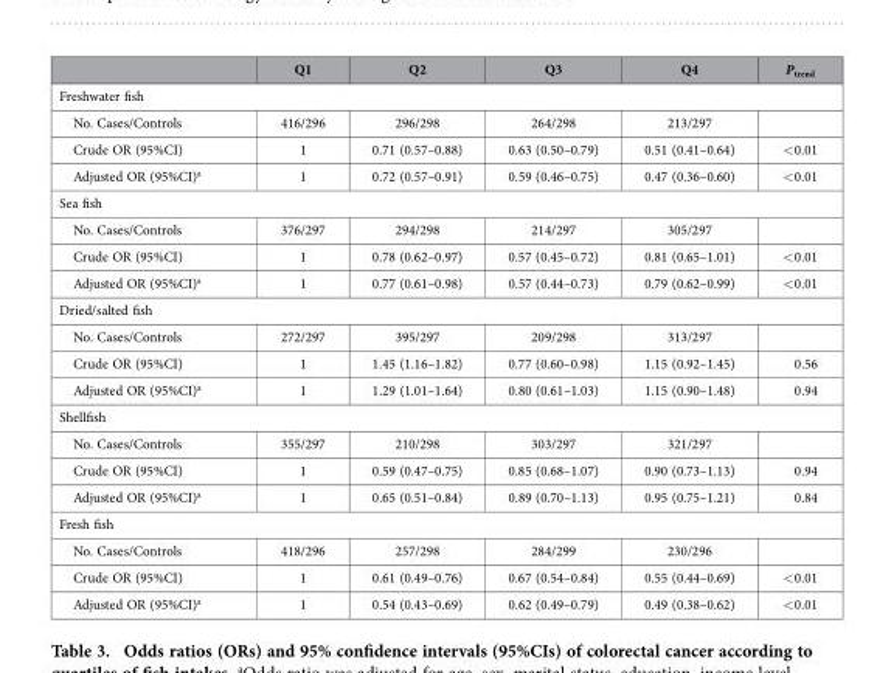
<table><thead><tr><td></td><td>Q1</td><td>Q2</td><td>Q3</td><td>Q4</td><td>P<sub>trend</sub></td></tr></thead><tbody><tr><td colspan="6">Freshwater fish</td></tr><tr><td>No. Cases/Controls</td><td>416/296</td><td>296/298</td><td>264/298</td><td>213/297</td><td></td></tr><tr><td>Crude OR (95%CI)</td><td>1</td><td>0.71 (0.57–0.88)</td><td>0.63 (0.50–0.79)</td><td>0.51 (0.41–0.64)</td><td>&lt; 0.01</td></tr><tr><td>Adjusted OR (95%CI)<sup>a</sup></td><td>1</td><td>0.72 (0.57–0.91)</td><td>0.59 (0.46–0.75)</td><td>0.47 (0.36–0.60)</td><td>&lt; 0.01</td></tr><tr><td colspan="6">Sea fish</td></tr><tr><td>No. Cases/Controls</td><td>376/297</td><td>294/298</td><td>214/297</td><td>305/297</td><td></td></tr><tr><td>Crude OR (95%CI)</td><td>1</td><td>0.78 (0.62–0.97)</td><td>0.57 (0.45–0.72)</td><td>0.81 (0.65–1.01)</td><td>&lt; 0.01</td></tr><tr><td>Adjusted OR (95%CI)<sup>a</sup></td><td>1</td><td>0.77 (0.61–0.98)</td><td>0.57 (0.44–0.73)</td><td>0.79 (0.62–0.99)</td><td>&lt; 0.01</td></tr><tr><td colspan="6">Dried/salted fish</td></tr><tr><td>No. Cases/Controls</td><td>272/297</td><td>395/297</td><td>209/298</td><td>313/297</td><td></td></tr><tr><td>Crude OR (95%CI)</td><td>1</td><td>1.45 (1.16–1.82)</td><td>0.77 (0.60–0.98)</td><td>1.15 (0.92–1.45)</td><td>0.56</td></tr><tr><td>Adjusted OR (95%CI)<sup>a</sup></td><td>1</td><td>1.29 (1.01–1.64)</td><td>0.80 (0.61–1.03)</td><td>1.15 (0.90–1.48)</td><td>0.94</td></tr><tr><td colspan="6">Shellfish</td></tr><tr><td>No. Cases/Controls</td><td>355/297</td><td>210/298</td><td>303/297</td><td>321/297</td><td></td></tr><tr><td>Crude OR (95%CI)</td><td>1</td><td>0.59 (0.47–0.75)</td><td>0.85 (0.68–1.07)</td><td>0.90 (0.73–1.13)</td><td>0.94</td></tr><tr><td>Adjusted OR (95%CI)<sup>a</sup></td><td>1</td><td>0.65 (0.51–0.84)</td><td>0.89 (0.70–1.13)</td><td>0.95 (0.75–1.21)</td><td>0.84</td></tr><tr><td colspan="6">Fresh fish</td></tr><tr><td>No. Cases/Controls</td><td>418/296</td><td>257/298</td><td>284/299</td><td>230/296</td><td></td></tr><tr><td>Crude OR (95%CI)</td><td>1</td><td>0.61 (0.49–0.76)</td><td>0.67 (0.54–0.84)</td><td>0.55 (0.44–0.69)</td><td>&lt; 0.01</td></tr><tr><td>Adjusted OR (95%CI)<sup>a</sup></td><td>1</td><td>0.54 (0.43–0.69)</td><td>0.62 (0.49–0.79)</td><td>0.49 (0.38–0.62)</td><td>&lt; 0.01</td></tr></tbody></table>